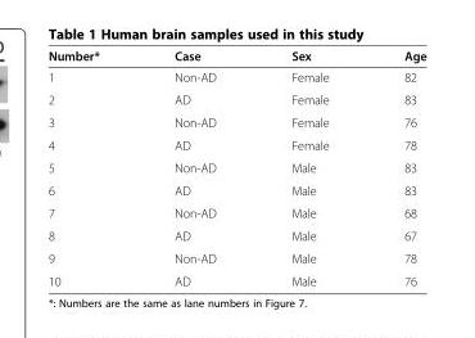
<table><thead><tr><td>Number*</td><td>Case</td><td>Sex</td><td>Age</td></tr></thead><tbody><tr><td>1</td><td>Non-AD</td><td>Female</td><td>82</td></tr><tr><td>2</td><td>AD</td><td>Female</td><td>83</td></tr><tr><td>3</td><td>Non-AD</td><td>Female</td><td>76</td></tr><tr><td>4</td><td>AD</td><td>Female</td><td>78</td></tr><tr><td>5</td><td>Non-AD</td><td>Male</td><td>83</td></tr><tr><td>6</td><td>AD</td><td>Male</td><td>83</td></tr><tr><td>7</td><td>Non-AD</td><td>Male</td><td>68</td></tr><tr><td>8</td><td>AD</td><td>Male</td><td>67</td></tr><tr><td>9</td><td>Non-AD</td><td>Male</td><td>78</td></tr><tr><td>10</td><td>AD</td><td>Male</td><td>76</td></tr></tbody></table>